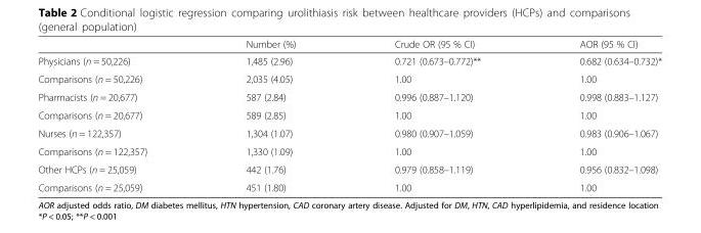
<table><thead><tr><td></td><td>Number (%)</td><td>Crude OR (95 % CI)</td><td>AOR (95 % CI)</td></tr></thead><tbody><tr><td>Physicians (n = 50,226)</td><td>1,485 (2.96)</td><td>0.721 (0.673–0.772)**</td><td>0.682 (0.634–0.732)*</td></tr><tr><td>Comparisons (n = 50,226)</td><td>2,035 (4.05)</td><td>1.00</td><td>1.00</td></tr><tr><td>Pharmacists (n = 20,677)</td><td>587 (2.84)</td><td>0.996 (0.887–1.120)</td><td>0.998 (0.883–1.127)</td></tr><tr><td>Comparisons (n = 20,677)</td><td>589 (2.85)</td><td>1.00</td><td>1.00</td></tr><tr><td>Nurses (n = 122,357)</td><td>1,304 (1.07)</td><td>0.980 (0.907–1.059)</td><td>0.983 (0.906–1.067)</td></tr><tr><td>Comparisons (n = 122,357)</td><td>1,330 (1.09)</td><td>1.00</td><td>1.00</td></tr><tr><td>Other HCPs (n = 25,059)</td><td>442 (1.76)</td><td>0.979 (0.858–1.119)</td><td>0.956 (0.832–1.098)</td></tr><tr><td>Comparisons (n = 25,059)</td><td>451 (1.80)</td><td>1.00</td><td>1.00</td></tr></tbody></table>